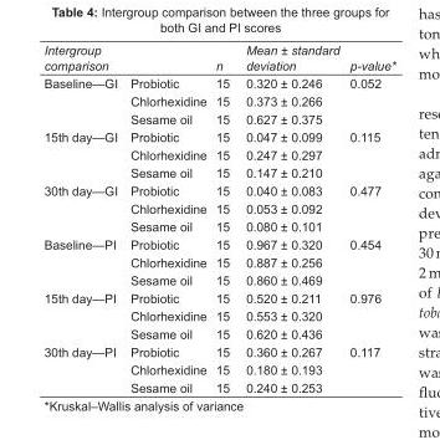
<table><tbody><tr><td>Intergroup comparison</td><td></td><td>n</td><td>Mean ± standard deviation</td><td>p-value*</td></tr><tr><td rowspan="3">Baseline—GI</td><td>Probiotic</td><td>15</td><td>0.320 ± 0.246</td><td>0.052</td></tr><tr><td>Chlorhexidine</td><td>15</td><td>0.373 ± 0.266</td><td></td></tr><tr><td>Sesame oil</td><td>15</td><td>0.627 ± 0.375</td><td></td></tr><tr><td rowspan="3">15th day—GI</td><td>Probiotic</td><td>15</td><td>0.047 ± 0.099</td><td>0.115</td></tr><tr><td>Chlorhexidine</td><td>15</td><td>0.247 ± 0.297</td><td></td></tr><tr><td>Sesame oil</td><td>15</td><td>0.147 ± 0.210</td><td></td></tr><tr><td rowspan="3">30th day—GI</td><td>Probiotic</td><td>15</td><td>0.040 ± 0.083</td><td>0.477</td></tr><tr><td>Chlorhexidine</td><td>15</td><td>0.053 ± 0.092</td><td></td></tr><tr><td>Sesame oil</td><td>15</td><td>0.080 ± 0.101</td><td></td></tr><tr><td rowspan="3">Baseline—PI</td><td>Probiotic</td><td>15</td><td>0.967 ± 0.320</td><td>0.454</td></tr><tr><td>Chlorhexidine</td><td>15</td><td>0.887 ± 0.256</td><td></td></tr><tr><td>Sesame oil</td><td>15</td><td>0.860 ± 0.469</td><td></td></tr><tr><td rowspan="3">15th day—PI</td><td>Probiotic</td><td>15</td><td>0.520 ± 0.211</td><td>0.976</td></tr><tr><td>Chlorhexidine</td><td>15</td><td>0.553 ± 0.320</td><td></td></tr><tr><td>Sesame oil</td><td>15</td><td>0.620 ± 0.436</td><td></td></tr><tr><td rowspan="3">30th day—PI</td><td>Probiotic</td><td>15</td><td>0.360 ± 0.267</td><td>0.117</td></tr><tr><td>Chlorhexidine</td><td>15</td><td>0.180 ± 0.193</td><td></td></tr><tr><td>Sesame oil</td><td>15</td><td>0.240 ± 0.253</td><td></td></tr></tbody></table>